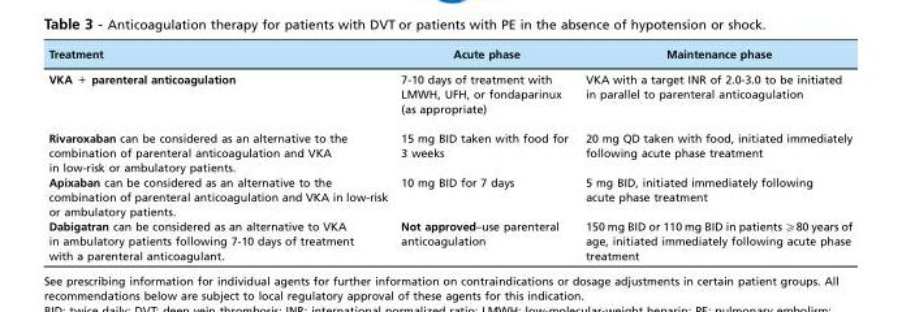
<table><thead><tr><td>Treatment</td><td>Acute phase</td><td>Maintenance phase</td></tr></thead><tbody><tr><td>VKA + parenteral anticoagulation</td><td>7-10 days of treatment with LMWH, UFH, or fondaparinux (as appropriate)</td><td>VKA with a target INR of 2.0-3.0 to be initiated in parallel to parenteral anticoagulation</td></tr><tr><td>Rivaroxaban can be considered as an alternative to the combination of parenteral anticoagulation and VKA in low-risk or ambulatory patients.</td><td>15 mg BID taken with food for 3 weeks</td><td>20 mg QD taken with food, initiated immediately following acute phase treatment</td></tr><tr><td>Apixaban can be considered as an alternative to the combination of parenteral anticoagulation and VKA in low-risk or ambulatory patients.</td><td>10 mg BID for 7 days</td><td>5 mg BID, initiated immediately following acute phase treatment</td></tr><tr><td>Dabigatran can be considered as an alternative to VKA in ambulatory patients following 7-10 days of treatment with a parenteral anticoagulant.</td><td>Not approved–use parenteral anticoagulation</td><td>150 mg BID or 110 mg BID in patients ≥80 years of age, initiated immediately following acute phase treatment</td></tr></tbody></table>